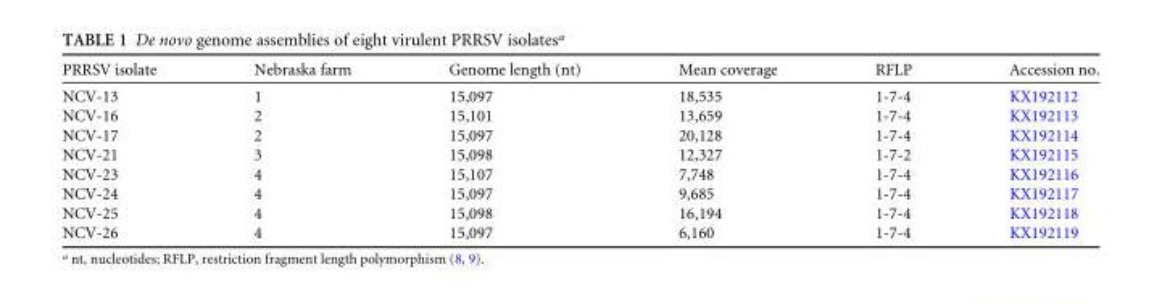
<table><thead><tr><td>PRRSV isolate</td><td>Nebraska farm</td><td>Genome length (nt)</td><td>Mean coverage</td><td>RFLP</td><td>Accession no.</td></tr></thead><tbody><tr><td>NCV-13</td><td>1</td><td>15,097</td><td>18,535</td><td>1-7-4</td><td>KX192112</td></tr><tr><td>NCV-16</td><td>2</td><td>15,101</td><td>13,659</td><td>1-7-4</td><td>KX192113</td></tr><tr><td>NCV-17</td><td>2</td><td>15,097</td><td>20,128</td><td>1-7-4</td><td>KX192114</td></tr><tr><td>NCV-21</td><td>3</td><td>15,098</td><td>12,327</td><td>1-7-2</td><td>KX192115</td></tr><tr><td>NCV-23</td><td>4</td><td>15,107</td><td>7,748</td><td>1-7-4</td><td>KX192116</td></tr><tr><td>NCV-24</td><td>4</td><td>15,097</td><td>9,685</td><td>1-7-4</td><td>KX192117</td></tr><tr><td>NCV-25</td><td>4</td><td>15,098</td><td>16,194</td><td>1-7-4</td><td>KX192118</td></tr><tr><td>NCV-26</td><td>4</td><td>15,097</td><td>6,160</td><td>1-7-4</td><td>KX192119</td></tr></tbody></table>